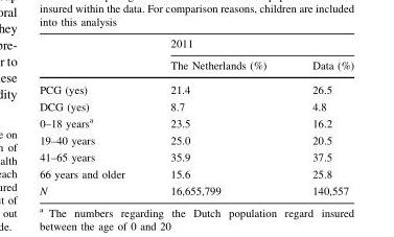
<table><thead><tr><td rowspan="2"></td><td colspan="2">2011</td></tr><tr><td>The Netherlands (%)</td><td>Data (%)</td></tr></thead><tbody><tr><td>PCG (yes)</td><td>21.4</td><td>26.5</td></tr><tr><td>DCG (yes)</td><td>8.7</td><td>4.8</td></tr><tr><td>0–18 years<sup>a</sup></td><td>23.5</td><td>16.2</td></tr><tr><td>19–40 years</td><td>25.0</td><td>20.5</td></tr><tr><td>41–65 years</td><td>35.9</td><td>37.5</td></tr><tr><td>66 years and older</td><td>15.6</td><td>25.8</td></tr><tr><td>N</td><td>16,655,799</td><td>140,557</td></tr></tbody></table>